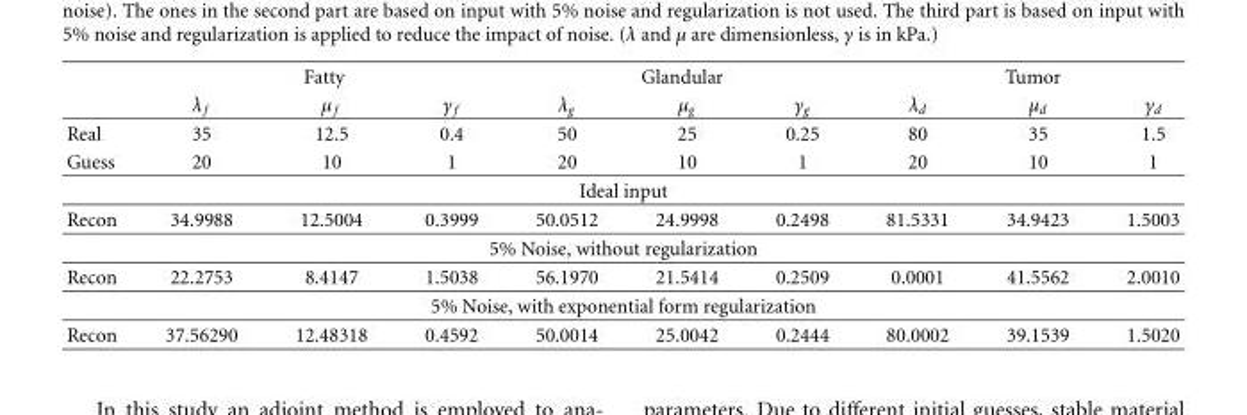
<table><thead><tr><td rowspan="2"></td><td colspan="3">Fatty</td><td colspan="3">Glandular</td><td colspan="3">Tumor</td></tr><tr><td>λ <sub>f</sub></td><td>μ <sub>f</sub></td><td>γ <sub>f</sub></td><td>λ<sub>g</sub></td><td>μ<sub>g</sub></td><td>γ<sub>g</sub></td><td>λ<sub>d</sub></td><td>μ<sub>d</sub></td><td>γ<sub>d</sub></td></tr></thead><tbody><tr><td>Real</td><td>35</td><td>12.5</td><td>0.4</td><td>50</td><td>25</td><td>0.25</td><td>80</td><td>35</td><td>1.5</td></tr><tr><td>Guess</td><td>20</td><td>10</td><td>1</td><td>20</td><td>10</td><td>1</td><td>20</td><td>10</td><td>1</td></tr><tr><td colspan="10">Ideal input</td></tr><tr><td>Recon</td><td>34.9988</td><td>12.5004</td><td>0.3999</td><td>50.0512</td><td>24.9998</td><td>0.2498</td><td>81.5331</td><td>34.9423</td><td>1.5003</td></tr><tr><td colspan="10">5% Noise, without regularization</td></tr><tr><td>Recon</td><td>22.2753</td><td>8.4147</td><td>1.5038</td><td>56.1970</td><td>21.5414</td><td>0.2509</td><td>0.0001</td><td>41.5562</td><td>2.0010</td></tr><tr><td colspan="10">5% Noise, with exponential form regularization</td></tr><tr><td>Recon</td><td>37.56290</td><td>12.48318</td><td>0.4592</td><td>50.0014</td><td>25.0042</td><td>0.2444</td><td>80.0002</td><td>39.1539</td><td>1.5020</td></tr></tbody></table>